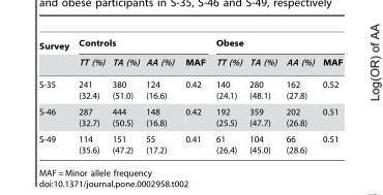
<table><thead><tr><td rowspan="2">Survey</td><td colspan="4">Controls</td><td colspan="4">Obese</td></tr><tr><td>TT (%)</td><td>TA (%)</td><td>AA (%)</td><td>MAF</td><td>TT (%)</td><td>TA (%)</td><td>AA (%)</td><td>MAF</td></tr></thead><tbody><tr><td>S-35</td><td>241 (32.4)</td><td>380 (51.0)</td><td>124 (16.6)</td><td>0.42</td><td>140 (24.1)</td><td>280 (48.1)</td><td>162 (27.8)</td><td>0.52</td></tr><tr><td>S-46</td><td>287 (32.7)</td><td>444 (50.5)</td><td>148 (16.8)</td><td>0.42</td><td>192 (25.5)</td><td>359 (47.7)</td><td>202 (26.8)</td><td>0.51</td></tr><tr><td>S-49</td><td>114 (35.6)</td><td>151 (47.2)</td><td>55 (17.2)</td><td>0.41</td><td>61 (26.4)</td><td>104 (45.0)</td><td>66 (28.6)</td><td>0.51</td></tr></tbody></table>